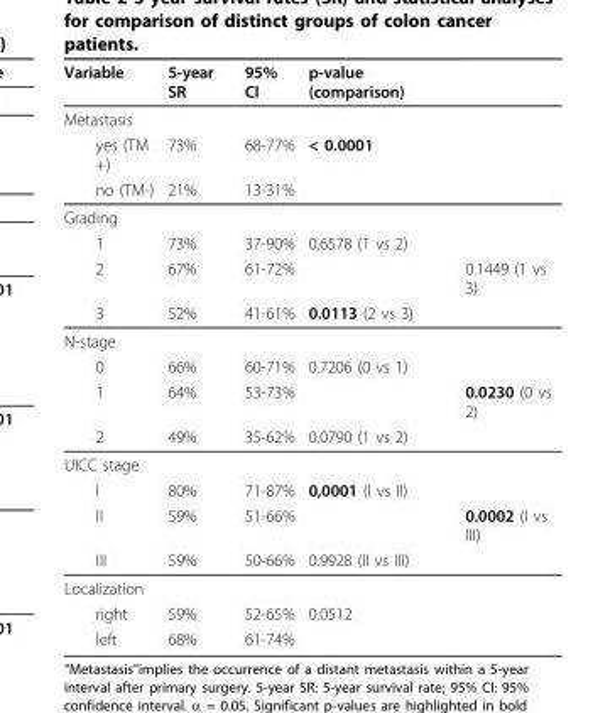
<table><thead><tr><td>Variable</td><td>5-year SR</td><td>95% CI</td><td>p-value (comparison)</td><td></td></tr></thead><tbody><tr><td colspan="5">Metastasis</td></tr><tr><td>yes (TM +)</td><td>73%</td><td>68-77%</td><td>&lt; 0.0001</td><td></td></tr><tr><td>no (TM-)</td><td>21%</td><td>13-31%</td><td></td><td></td></tr><tr><td colspan="5">Grading</td></tr><tr><td>1</td><td>73%</td><td>37-90%</td><td>0,6578 (1 vs 2)</td><td></td></tr><tr><td>2</td><td>67%</td><td>61-72%</td><td></td><td>0.1449 (1 vs 3)</td></tr><tr><td>3</td><td>52%</td><td>41-61%</td><td>0.0113 (2 vs 3)</td><td></td></tr><tr><td colspan="5">N-stage</td></tr><tr><td>0</td><td>66%</td><td>60-71%</td><td>0.7206 (0 vs 1)</td><td></td></tr><tr><td>1</td><td>64%</td><td>53-73%</td><td></td><td>0.0230 (0 vs 2)</td></tr><tr><td>2</td><td>49%</td><td>35-62%</td><td>0.0790 (1 vs 2)</td><td></td></tr><tr><td colspan="5">UICC stage</td></tr><tr><td>I</td><td>80%</td><td>71-87%</td><td>0,0001 (I vs II)</td><td></td></tr><tr><td>II</td><td>59%</td><td>51-66%</td><td></td><td>0.0002 (I vs III)</td></tr><tr><td>III</td><td>59%</td><td>50-66%</td><td>0.9928 (II vs III)</td><td></td></tr><tr><td colspan="5">Localization</td></tr><tr><td>right</td><td>59%</td><td>52-65%</td><td>0.0512</td><td></td></tr><tr><td>left</td><td>68%</td><td>61-74%</td><td></td><td></td></tr></tbody></table>